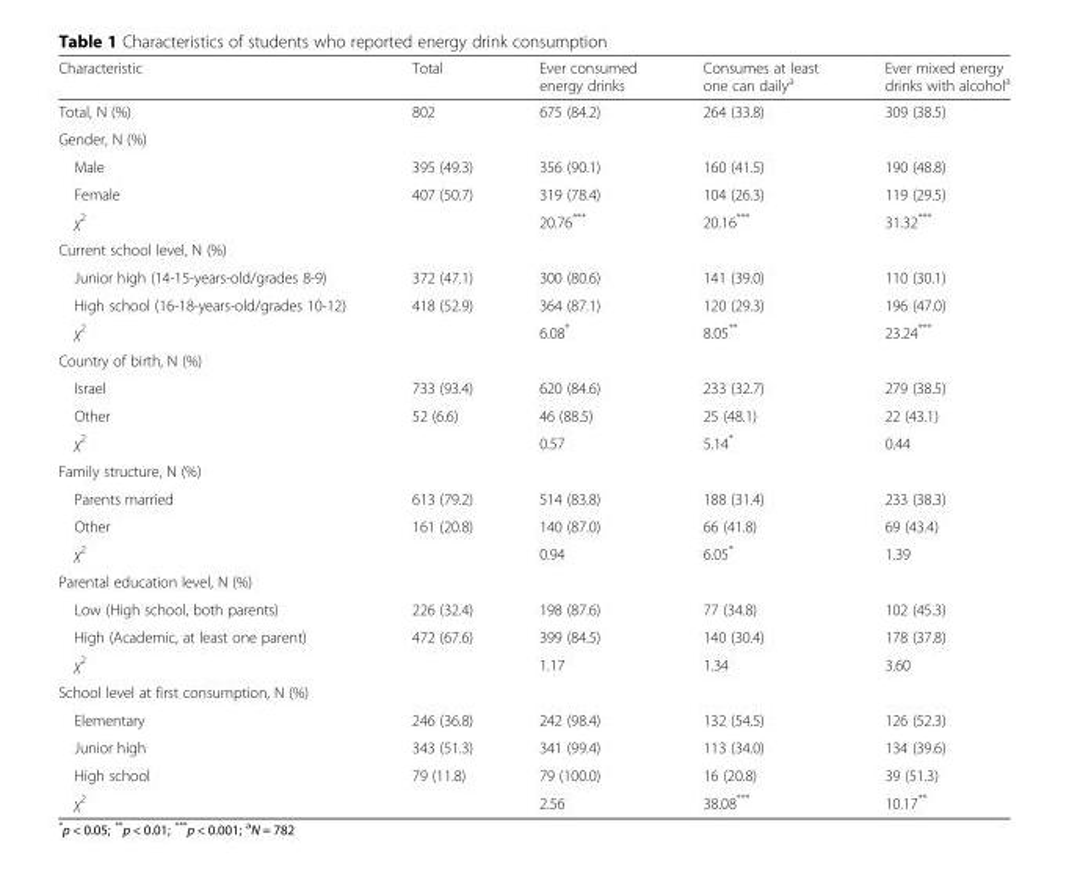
<table><thead><tr><td>Characteristic</td><td>Total</td><td>Ever consumed energy drinks</td><td>Consumes at least one can daily<sup>a</sup></td><td>Ever mixed energy drinks with alcohol<sup>a</sup></td></tr></thead><tbody><tr><td>Total, N (%)</td><td>802</td><td>675 (84.2)</td><td>264 (33.8)</td><td>309 (38.5)</td></tr><tr><td colspan="5">Gender, N (%)</td></tr><tr><td>Male</td><td>395 (49.3)</td><td>356 (90.1)</td><td>160 (41.5)</td><td>190 (48.8)</td></tr><tr><td>Female</td><td>407 (50.7)</td><td>319 (78.4)</td><td>104 (26.3)</td><td>119 (29.5)</td></tr><tr><td>χ<sup>2</sup></td><td></td><td>20.76***</td><td>20.16***</td><td>31.32***</td></tr><tr><td colspan="5">Current school level, N (%)</td></tr><tr><td>Junior high (14-15-years-old/grades 8-9)</td><td>372 (47.1)</td><td>300 (80.6)</td><td>141 (39.0)</td><td>110 (30.1)</td></tr><tr><td>High school (16-18-years-old/grades 10-12)</td><td>418 (52.9)</td><td>364 (87.1)</td><td>120 (29.3)</td><td>196 (47.0)</td></tr><tr><td>χ<sup>2</sup></td><td></td><td>6.08*</td><td>8.05**</td><td>23.24***</td></tr><tr><td colspan="5">Country of birth, N (%)</td></tr><tr><td>Israel</td><td>733 (93.4)</td><td>620 (84.6)</td><td>233 (32.7)</td><td>279 (38.5)</td></tr><tr><td>Other</td><td>52 (6.6)</td><td>46 (88.5)</td><td>25 (48.1)</td><td>22 (43.1)</td></tr><tr><td>χ<sup>2</sup></td><td></td><td>0.57</td><td>5.14*</td><td>0.44</td></tr><tr><td colspan="5">Family structure, N (%)</td></tr><tr><td>Parents married</td><td>613 (79.2)</td><td>514 (83.8)</td><td>188 (31.4)</td><td>233 (38.3)</td></tr><tr><td>Other</td><td>161 (20.8)</td><td>140 (87.0)</td><td>66 (41.8)</td><td>69 (43.4)</td></tr><tr><td>χ<sup>2</sup></td><td></td><td>0.94</td><td>6.05*</td><td>1.39</td></tr><tr><td colspan="5">Parental education level, N (%)</td></tr><tr><td>Low (High school, both parents)</td><td>226 (32.4)</td><td>198 (87.6)</td><td>77 (34.8)</td><td>102 (45.3)</td></tr><tr><td>High (Academic, at least one parent)</td><td>472 (67.6)</td><td>399 (84.5)</td><td>140 (30.4)</td><td>178 (37.8)</td></tr><tr><td>χ<sup>2</sup></td><td></td><td>1.17</td><td>1.34</td><td>3.60</td></tr><tr><td colspan="5">School level at first consumption, N (%)</td></tr><tr><td>Elementary</td><td>246 (36.8)</td><td>242 (98.4)</td><td>132 (54.5)</td><td>126 (52.3)</td></tr><tr><td>Junior high</td><td>343 (51.3)</td><td>341 (99.4)</td><td>113 (34.0)</td><td>134 (39.6)</td></tr><tr><td>High school</td><td>79 (11.8)</td><td>79 (100.0)</td><td>16 (20.8)</td><td>39 (51.3)</td></tr><tr><td>χ<sup>2</sup></td><td></td><td>2.56</td><td>38.08***</td><td>10.17**</td></tr></tbody></table>